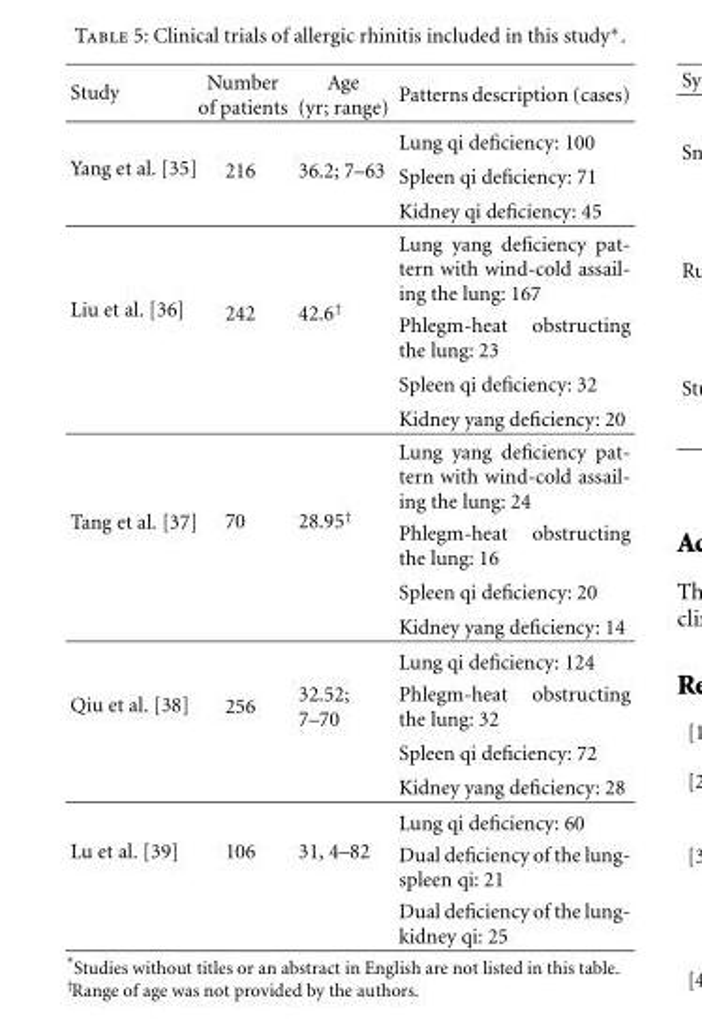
<table><thead><tr><td>Study</td><td>Number of patients</td><td>Age (yr; range)</td><td>Patterns description (cases)</td></tr></thead><tbody><tr><td rowspan="3">Yang et al. [35]</td><td rowspan="3">216</td><td rowspan="3">36.2; 7–63</td><td>Lung qi deficiency: 100</td></tr><tr><td>Spleen qi deficiency: 71</td></tr><tr><td>Kidney qi deficiency: 45</td></tr><tr><td rowspan="4">Liu et al. [36]</td><td rowspan="4">242</td><td rowspan="4">42.6<sup>†</sup></td><td>Lung yang deficiency pat- tern with wind-cold assail- ing the lung: 167</td></tr><tr><td>Phlegm-heat obstructing the lung: 23</td></tr><tr><td>Spleen qi deficiency: 32</td></tr><tr><td>Kidney yang deficiency: 20</td></tr><tr><td rowspan="4">Tang et al. [37]</td><td rowspan="4">70</td><td rowspan="4">28.95<sup>†</sup></td><td>Lung yang deficiency pat- tern with wind-cold assail- ing the lung: 24</td></tr><tr><td>Phlegm-heat obstructing the lung: 16</td></tr><tr><td>Spleen qi deficiency: 20</td></tr><tr><td>Kidney yang deficiency: 14</td></tr><tr><td rowspan="4">Qiu et al. [38]</td><td rowspan="4">256</td><td rowspan="4">32.52; 7–70</td><td>Lung qi deficiency: 124</td></tr><tr><td>Phlegm-heat obstructing the lung: 32</td></tr><tr><td>Spleen qi deficiency: 72</td></tr><tr><td>Kidney yang deficiency: 28</td></tr><tr><td rowspan="3">Lu et al. [39]</td><td rowspan="3">106</td><td rowspan="3">31, 4–82</td><td>Lung qi deficiency: 60</td></tr><tr><td>Dual deficiency of the lung- spleen qi: 21</td></tr><tr><td>Dual deficiency of the lung- kidney qi: 25</td></tr></tbody></table>